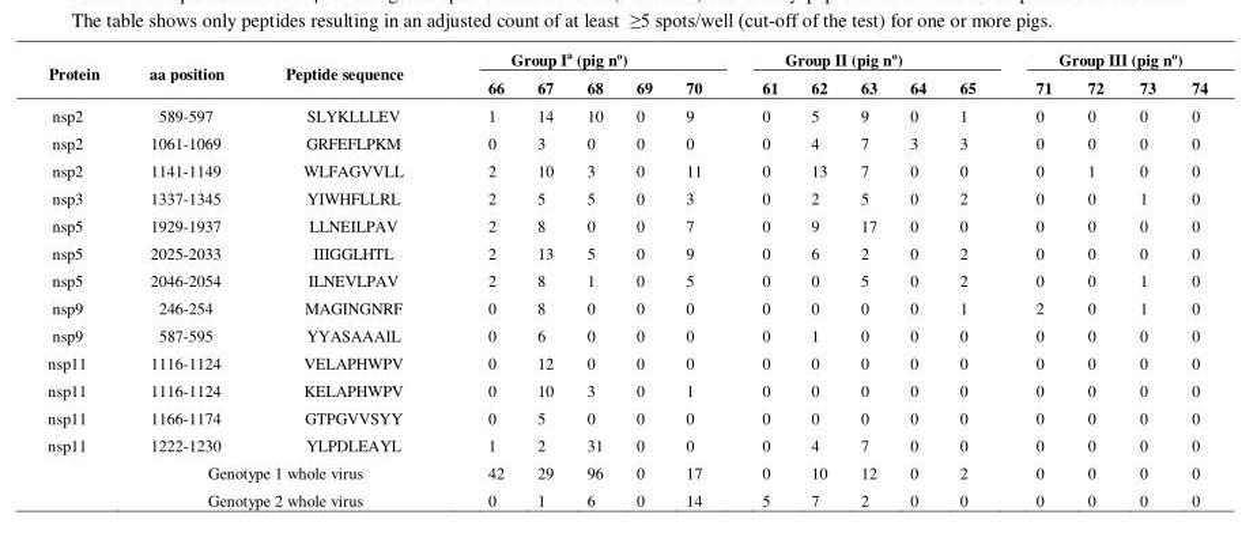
<table><thead><tr><td rowspan="2">Protein</td><td rowspan="2">aa position</td><td rowspan="2">Peptide sequence</td><td colspan="5">Group I<sup>a</sup> (pig nº)</td><td colspan="5">Group II (pig nº)</td><td colspan="4">Group III (pig nº)</td></tr><tr><td>66</td><td>67</td><td>68</td><td>69</td><td>70</td><td>61</td><td>62</td><td>63</td><td>64</td><td>65</td><td>71</td><td>72</td><td>73</td><td>74</td></tr></thead><tbody><tr><td>nsp2</td><td>589-597</td><td>SLYKLLLEV</td><td>1</td><td>14</td><td>10</td><td>0</td><td>9</td><td>0</td><td>5</td><td>9</td><td>0</td><td>1</td><td>0</td><td>0</td><td>0</td><td>0</td></tr><tr><td>nsp2</td><td>1061-1069</td><td>GRFEFLPKM</td><td>0</td><td>3</td><td>0</td><td>0</td><td>0</td><td>0</td><td>4</td><td>7</td><td>3</td><td>3</td><td>0</td><td>0</td><td>0</td><td>0</td></tr><tr><td>nsp2</td><td>1141-1149</td><td>WLFAGVVLL</td><td>2</td><td>10</td><td>3</td><td>0</td><td>11</td><td>0</td><td>13</td><td>7</td><td>0</td><td>0</td><td>0</td><td>1</td><td>0</td><td>0</td></tr><tr><td>nsp3</td><td>1337-1345</td><td>YIWHFLLRL</td><td>2</td><td>5</td><td>5</td><td>0</td><td>3</td><td>0</td><td>2</td><td>5</td><td>0</td><td>2</td><td>0</td><td>0</td><td>1</td><td>0</td></tr><tr><td>nsp5</td><td>1929-1937</td><td>LLNEILPAV</td><td>2</td><td>8</td><td>0</td><td>0</td><td>7</td><td>0</td><td>9</td><td>17</td><td>0</td><td>0</td><td>0</td><td>0</td><td>0</td><td>0</td></tr><tr><td>nsp5</td><td>2025-2033</td><td>IIIGGLHTL</td><td>2</td><td>13</td><td>5</td><td>0</td><td>9</td><td>0</td><td>6</td><td>2</td><td>0</td><td>2</td><td>0</td><td>0</td><td>0</td><td>0</td></tr><tr><td>nsp5</td><td>2046-2054</td><td>ILNEVLPAV</td><td>2</td><td>8</td><td>1</td><td>0</td><td>5</td><td>0</td><td>0</td><td>5</td><td>0</td><td>2</td><td>0</td><td>0</td><td>1</td><td>0</td></tr><tr><td>nsp9</td><td>246-254</td><td>MAGINGNRF</td><td>0</td><td>8</td><td>0</td><td>0</td><td>0</td><td>0</td><td>0</td><td>0</td><td>0</td><td>1</td><td>2</td><td>0</td><td>1</td><td>0</td></tr><tr><td>nsp9</td><td>587-595</td><td>YYASAAAIL</td><td>0</td><td>6</td><td>0</td><td>0</td><td>0</td><td>0</td><td>1</td><td>0</td><td>0</td><td>0</td><td>0</td><td>0</td><td>0</td><td>0</td></tr><tr><td>nsp11</td><td>1116-1124</td><td>VELAPHWPV</td><td>0</td><td>12</td><td>0</td><td>0</td><td>0</td><td>0</td><td>0</td><td>0</td><td>0</td><td>0</td><td>0</td><td>0</td><td>0</td><td>0</td></tr><tr><td>nsp11</td><td>1116-1124</td><td>KELAPHWPV</td><td>0</td><td>10</td><td>3</td><td>0</td><td>1</td><td>0</td><td>0</td><td>0</td><td>0</td><td>0</td><td>0</td><td>0</td><td>0</td><td>0</td></tr><tr><td>nsp11</td><td>1166-1174</td><td>GTPGVVSYY</td><td>0</td><td>5</td><td>0</td><td>0</td><td>0</td><td>0</td><td>0</td><td>0</td><td>0</td><td>0</td><td>0</td><td>0</td><td>0</td><td>0</td></tr><tr><td rowspan="3">nsp11</td><td>1222-1230</td><td>YLPDLEAYL</td><td>1</td><td>2</td><td>31</td><td>0</td><td>0</td><td>0</td><td>4</td><td>7</td><td>0</td><td>0</td><td>0</td><td>0</td><td>0</td><td>0</td></tr><tr><td colspan="2">Genotype 1 whole virus</td><td>42</td><td>29</td><td>96</td><td>0</td><td>17</td><td>0</td><td>10</td><td>12</td><td>0</td><td>2</td><td>0</td><td>0</td><td>0</td><td>0</td></tr><tr><td colspan="2">Genotype 2 whole virus</td><td>0</td><td>1</td><td>6</td><td>0</td><td>14</td><td>5</td><td>7</td><td>2</td><td>0</td><td>0</td><td>0</td><td>0</td><td>0</td><td>0</td></tr></tbody></table>